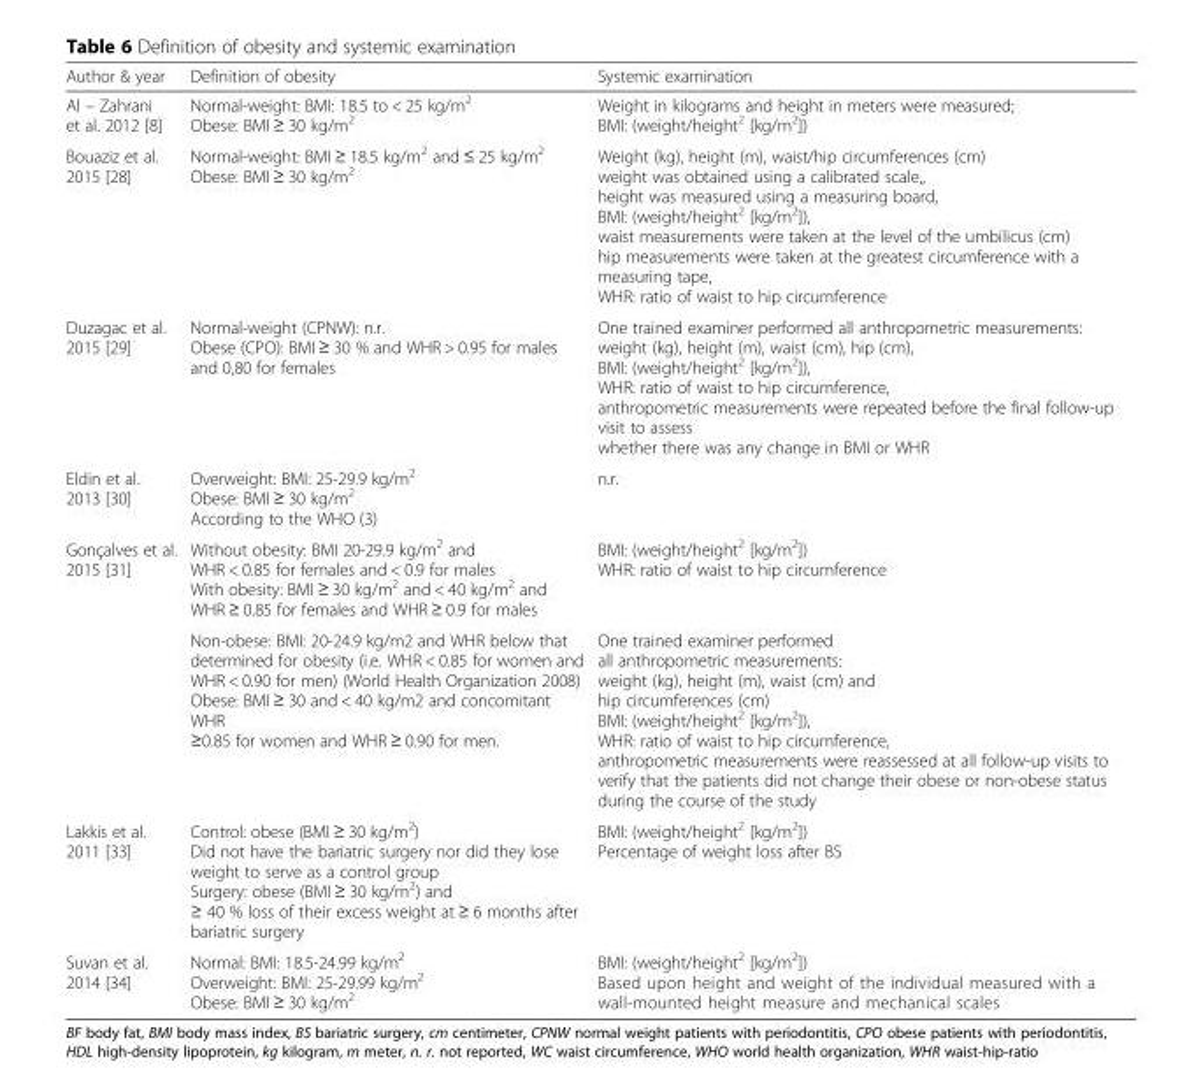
<table><thead><tr><td>Author &amp; year</td><td>Definition of obesity</td><td>Systemic examination</td></tr></thead><tbody><tr><td>Al – Zahrani et al. 2012 [8]</td><td>Normal-weight: BMI: 18.5 to &lt; 25 kg/m<sup>2</sup> Obese: BMI ≥ 30 kg/m<sup>2</sup></td><td>Weight in kilograms and height in meters were measured; BMI: (weight/height<sup>2</sup> [kg/m<sup>2</sup>])</td></tr><tr><td>Bouaziz et al. 2015 [28]</td><td>Normal-weight: BMI ≥ 18.5 kg/m<sup>2</sup> and ≤ 25 kg/m<sup>2</sup> Obese: BMI ≥ 30 kg/m<sup>2</sup></td><td>Weight (kg), height (m), waist/hip circumferences (cm) weight was obtained using a calibrated scale,, height was measured using a measuring board, BMI: (weight/height<sup>2</sup> [kg/m<sup>2</sup>]), waist measurements were taken at the level of the umbilicus (cm) hip measurements were taken at the greatest circumference with a measuring tape, WHR: ratio of waist to hip circumference</td></tr><tr><td>Duzagac et al. 2015 [29]</td><td>Normal-weight (CPNW): n.r. Obese (CPO): BMI ≥ 30 % and WHR &gt; 0.95 for males and 0,80 for females</td><td>One trained examiner performed all anthropometric measurements: weight (kg), height (m), waist (cm), hip (cm), BMI: (weight/height<sup>2</sup> [kg/m<sup>2</sup>]), WHR: ratio of waist to hip circumference, anthropometric measurements were repeated before the final follow-up visit to assess whether there was any change in BMI or WHR</td></tr><tr><td>Eldin et al. 2013 [30]</td><td>Overweight: BMI: 25-29.9 kg/m<sup>2</sup> Obese: BMI ≥ 30 kg/m<sup>2</sup> According to the WHO (3)</td><td>n.r.</td></tr><tr><td rowspan="2">Gonçalves et al. 2015 [31]</td><td>Without obesity: BMI 20-29.9 kg/m<sup>2</sup> and WHR &lt; 0.85 for females and &lt; 0.9 for males With obesity: BMI ≥ 30 kg/m<sup>2</sup> and &lt; 40 kg/m<sup>2</sup> and WHR ≥ 0.85 for females and WHR ≥ 0.9 for males</td><td>BMI: (weight/height<sup>2</sup> [kg/m<sup>2</sup>]) WHR: ratio of waist to hip circumference</td></tr><tr><td>Non-obese: BMI: 20-24.9 kg/m2 and WHR below that determined for obesity (i.e. WHR &lt; 0.85 for women and WHR &lt; 0.90 for men) (World Health Organization 2008) Obese: BMI ≥ 30 and &lt; 40 kg/m2 and concomitant WHR ≥0.85 for women and WHR ≥ 0.90 for men.</td><td>One trained examiner performed all anthropometric measurements: weight (kg), height (m), waist (cm) and hip circumferences (cm) BMI: (weight/height<sup>2</sup> [kg/m<sup>2</sup>]), WHR: ratio of waist to hip circumference, anthropometric measurements were reassessed at all follow-up visits to verify that the patients did not change their obese or non-obese status during the course of the study</td></tr><tr><td>Lakkis et al. 2011 [33]</td><td>Control: obese (BMI ≥ 30 kg/m<sup>2</sup>) Did not have the bariatric surgery nor did they lose weight to serve as a control group Surgery: obese (BMI ≥ 30 kg/m<sup>2</sup>) and ≥ 40 % loss of their excess weight at ≥ 6 months after bariatric surgery</td><td>BMI: (weight/height<sup>2</sup> [kg/m<sup>2</sup>]) Percentage of weight loss after BS</td></tr><tr><td>Suvan et al. 2014 [34]</td><td>Normal: BMI: 18.5-24.99 kg/m<sup>2</sup> Overweight: BMI: 25-29.99 kg/m<sup>2</sup> Obese: BMI ≥ 30 kg/m<sup>2</sup></td><td>BMI: (weight/height<sup>2</sup> [kg/m<sup>2</sup>]) Based upon height and weight of the individual measured with a wall-mounted height measure and mechanical scales</td></tr></tbody></table>